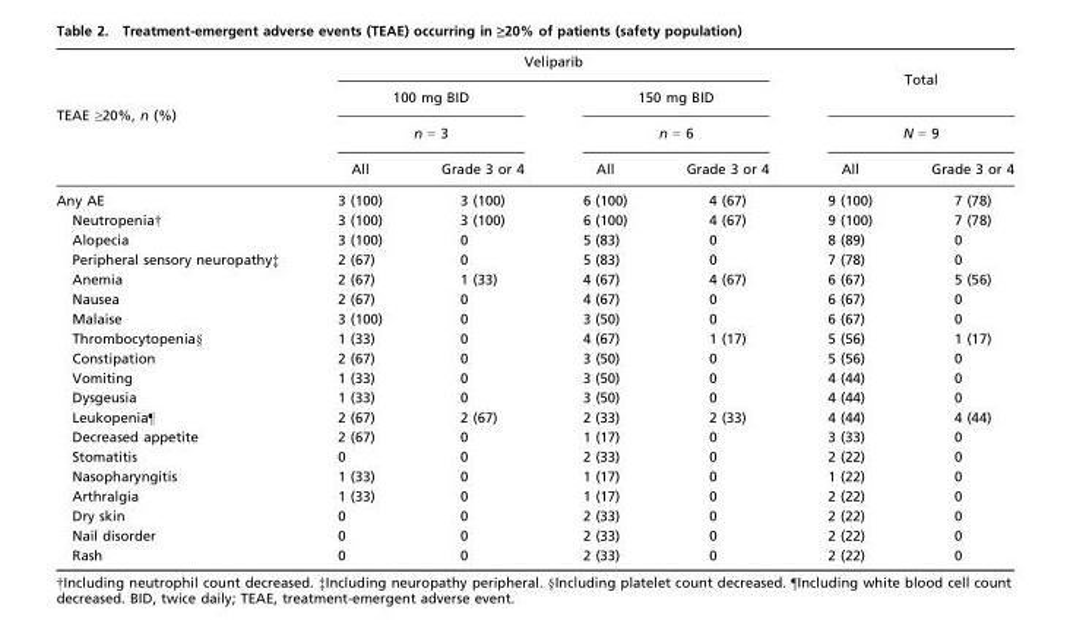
<table><thead><tr><td rowspan="4">TEAE ≥20%, n (%)</td><td colspan="4">Veliparib</td><td rowspan="3" colspan="2">Total N = 9</td></tr><tr><td rowspan="2" colspan="2">100 mg BID n = 3</td><td rowspan="2" colspan="2">150 mg BID n = 6</td></tr><tr></tr><tr><td>All</td><td>Grade 3 or 4</td><td>All</td><td>Grade 3 or 4</td><td>All</td><td>Grade 3 or 4</td></tr></thead><tbody><tr><td>Any AE</td><td>3 (100)</td><td>3 (100)</td><td>6 (100)</td><td>4 (67)</td><td>9 (100)</td><td>7 (78)</td></tr><tr><td>Neutropenia†</td><td>3 (100)</td><td>3 (100)</td><td>6 (100)</td><td>4 (67)</td><td>9 (100)</td><td>7 (78)</td></tr><tr><td>Alopecia</td><td>3 (100)</td><td>0</td><td>5 (83)</td><td>0</td><td>8 (89)</td><td>0</td></tr><tr><td>Peripheral sensory neuropathy‡</td><td>2 (67)</td><td>0</td><td>5 (83)</td><td>0</td><td>7 (78)</td><td>0</td></tr><tr><td>Anemia</td><td>2 (67)</td><td>1 (33)</td><td>4 (67)</td><td>4 (67)</td><td>6 (67)</td><td>5 (56)</td></tr><tr><td>Nausea</td><td>2 (67)</td><td>0</td><td>4 (67)</td><td>0</td><td>6 (67)</td><td>0</td></tr><tr><td>Malaise</td><td>3 (100)</td><td>0</td><td>3 (50)</td><td>0</td><td>6 (67)</td><td>0</td></tr><tr><td>Thrombocytopenia§</td><td>1 (33)</td><td>0</td><td>4 (67)</td><td>1 (17)</td><td>5 (56)</td><td>1 (17)</td></tr><tr><td>Constipation</td><td>2 (67)</td><td>0</td><td>3 (50)</td><td>0</td><td>5 (56)</td><td>0</td></tr><tr><td>Vomiting</td><td>1 (33)</td><td>0</td><td>3 (50)</td><td>0</td><td>4 (44)</td><td>0</td></tr><tr><td>Dysgeusia</td><td>1 (33)</td><td>0</td><td>3 (50)</td><td>0</td><td>4 (44)</td><td>0</td></tr><tr><td>Leukopenia¶</td><td>2 (67)</td><td>2 (67)</td><td>2 (33)</td><td>2 (33)</td><td>4 (44)</td><td>4 (44)</td></tr><tr><td>Decreased appetite</td><td>2 (67)</td><td>0</td><td>1 (17)</td><td>0</td><td>3 (33)</td><td>0</td></tr><tr><td>Stomatitis</td><td>0</td><td>0</td><td>2 (33)</td><td>0</td><td>2 (22)</td><td>0</td></tr><tr><td>Nasopharyngitis</td><td>1 (33)</td><td>0</td><td>1 (17)</td><td>0</td><td>1 (22)</td><td>0</td></tr><tr><td>Arthralgia</td><td>1 (33)</td><td>0</td><td>1 (17)</td><td>0</td><td>2 (22)</td><td>0</td></tr><tr><td>Dry skin</td><td>0</td><td>0</td><td>2 (33)</td><td>0</td><td>2 (22)</td><td>0</td></tr><tr><td>Nail disorder</td><td>0</td><td>0</td><td>2 (33)</td><td>0</td><td>2 (22)</td><td>0</td></tr><tr><td>Rash</td><td>0</td><td>0</td><td>2 (33)</td><td>0</td><td>2 (22)</td><td>0</td></tr></tbody></table>